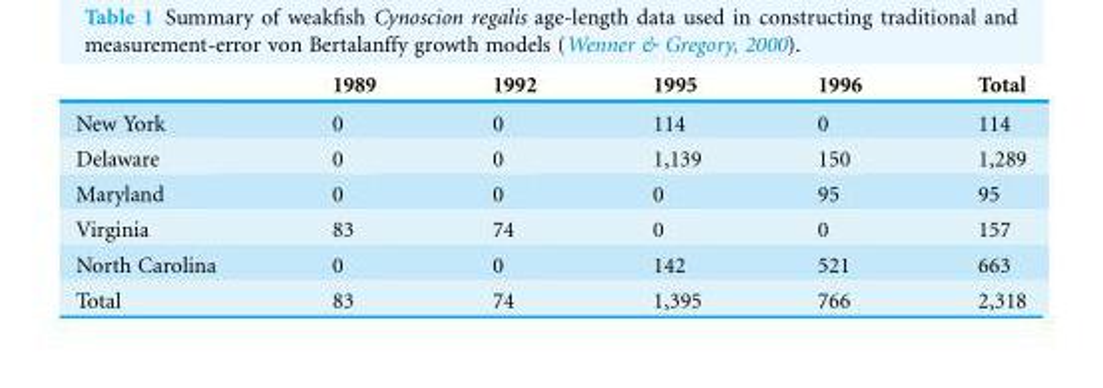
<table><thead><tr><td></td><td>1989</td><td>1992</td><td>1995</td><td>1996</td><td>Total</td></tr></thead><tbody><tr><td>New York</td><td>0</td><td>0</td><td>114</td><td>0</td><td>114</td></tr><tr><td>Delaware</td><td>0</td><td>0</td><td>1,139</td><td>150</td><td>1,289</td></tr><tr><td>Maryland</td><td>0</td><td>0</td><td>0</td><td>95</td><td>95</td></tr><tr><td>Virginia</td><td>83</td><td>74</td><td>0</td><td>0</td><td>157</td></tr><tr><td>North Carolina</td><td>0</td><td>0</td><td>142</td><td>521</td><td>663</td></tr><tr><td>Total</td><td>83</td><td>74</td><td>1,395</td><td>766</td><td>2,318</td></tr></tbody></table>